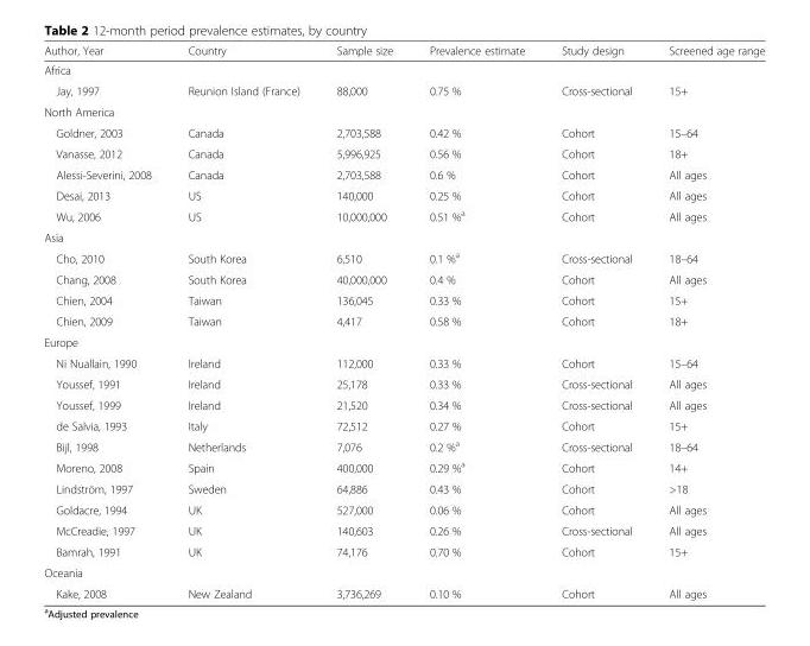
<table><thead><tr><td>Author, Year</td><td>Country</td><td>Sample size</td><td>Prevalence estimate</td><td>Study design</td><td>Screened age range</td></tr></thead><tbody><tr><td colspan="6">Africa</td></tr><tr><td>Jay, 1997</td><td>Reunion Island (France)</td><td>88,000</td><td>0.75 %</td><td>Cross-sectional</td><td>15+</td></tr><tr><td colspan="6">North America</td></tr><tr><td>Goldner, 2003</td><td>Canada</td><td>2,703,588</td><td>0.42 %</td><td>Cohort</td><td>15–64</td></tr><tr><td>Vanasse, 2012</td><td>Canada</td><td>5,996,925</td><td>0.56 %</td><td>Cohort</td><td>18+</td></tr><tr><td>Alessi-Severini, 2008</td><td>Canada</td><td>2,703,588</td><td>0.6 %</td><td>Cohort</td><td>All ages</td></tr><tr><td>Desai, 2013</td><td>US</td><td>140,000</td><td>0.25 %</td><td>Cohort</td><td>All ages</td></tr><tr><td>Wu, 2006</td><td>US</td><td>10,000,000</td><td>0.51 %<sup>a</sup></td><td>Cohort</td><td>All ages</td></tr><tr><td colspan="6">Asia</td></tr><tr><td>Cho, 2010</td><td>South Korea</td><td>6,510</td><td>0.1 %<sup>a</sup></td><td>Cross-sectional</td><td>18–64</td></tr><tr><td>Chang, 2008</td><td>South Korea</td><td>40,000,000</td><td>0.4 %</td><td>Cohort</td><td>All ages</td></tr><tr><td>Chien, 2004</td><td>Taiwan</td><td>136,045</td><td>0.33 %</td><td>Cohort</td><td>15+</td></tr><tr><td>Chien, 2009</td><td>Taiwan</td><td>4,417</td><td>0.58 %</td><td>Cohort</td><td>18+</td></tr><tr><td colspan="6">Europe</td></tr><tr><td>Ni Nuallain, 1990</td><td>Ireland</td><td>112,000</td><td>0.33 %</td><td>Cohort</td><td>15–64</td></tr><tr><td>Youssef, 1991</td><td>Ireland</td><td>25,178</td><td>0.33 %</td><td>Cross-sectional</td><td>All ages</td></tr><tr><td>Youssef, 1999</td><td>Ireland</td><td>21,520</td><td>0.34 %</td><td>Cross-sectional</td><td>All ages</td></tr><tr><td>de Salvia, 1993</td><td>Italy</td><td>72,512</td><td>0.27 %</td><td>Cohort</td><td>15+</td></tr><tr><td>Bijl, 1998</td><td>Netherlands</td><td>7,076</td><td>0.2 %<sup>a</sup></td><td>Cross-sectional</td><td>18–64</td></tr><tr><td>Moreno, 2008</td><td>Spain</td><td>400,000</td><td>0.29 %<sup>a</sup></td><td>Cohort</td><td>14+</td></tr><tr><td>Lindström, 1997</td><td>Sweden</td><td>64,886</td><td>0.43 %</td><td>Cohort</td><td>&gt;18</td></tr><tr><td>Goldacre, 1994</td><td>UK</td><td>527,000</td><td>0.06 %</td><td>Cohort</td><td>All ages</td></tr><tr><td>McCreadie, 1997</td><td>UK</td><td>140,603</td><td>0.26 %</td><td>Cross-sectional</td><td>All ages</td></tr><tr><td>Bamrah, 1991</td><td>UK</td><td>74,176</td><td>0.70 %</td><td>Cohort</td><td>15+</td></tr><tr><td colspan="6">Oceania</td></tr><tr><td>Kake, 2008</td><td>New Zealand</td><td>3,736,269</td><td>0.10 %</td><td>Cohort</td><td>All ages</td></tr></tbody></table>